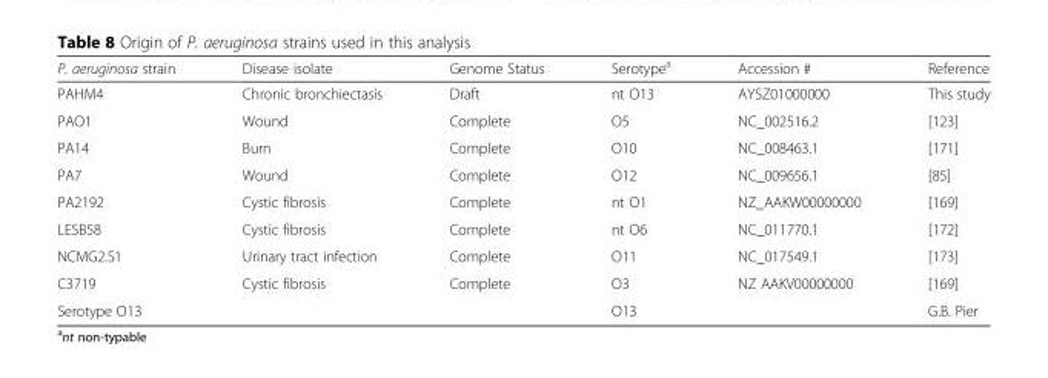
<table><thead><tr><td>P. aeruginosa strain</td><td>Disease isolate</td><td>Genome Status</td><td>Serotype<sup>a</sup></td><td>Accession #</td><td>Reference</td></tr></thead><tbody><tr><td>PAHM4</td><td>Chronic bronchiectasis</td><td>Draft</td><td>nt O13</td><td>AYSZ01000000</td><td>This study</td></tr><tr><td>PAO1</td><td>Wound</td><td>Complete</td><td>O5</td><td>NC_002516.2</td><td>[123]</td></tr><tr><td>PA14</td><td>Burn</td><td>Complete</td><td>O10</td><td>NC_008463.1</td><td>[171]</td></tr><tr><td>PA7</td><td>Wound</td><td>Complete</td><td>O12</td><td>NC_009656.1</td><td>[85]</td></tr><tr><td>PA2192</td><td>Cystic fibrosis</td><td>Complete</td><td>nt O1</td><td>NZ_AAKW00000000</td><td>[169]</td></tr><tr><td>LESB58</td><td>Cystic fibrosis</td><td>Complete</td><td>nt O6</td><td>NC_011770.1</td><td>[172]</td></tr><tr><td>NCMG2.S1</td><td>Urinary tract infection</td><td>Complete</td><td>O11</td><td>NC_017549.1</td><td>[173]</td></tr><tr><td>C3719</td><td>Cystic fibrosis</td><td>Complete</td><td>O3</td><td>NZ AAKV00000000</td><td>[169]</td></tr><tr><td>Serotype O13</td><td></td><td></td><td>O13</td><td></td><td>G.B. Pier</td></tr></tbody></table>